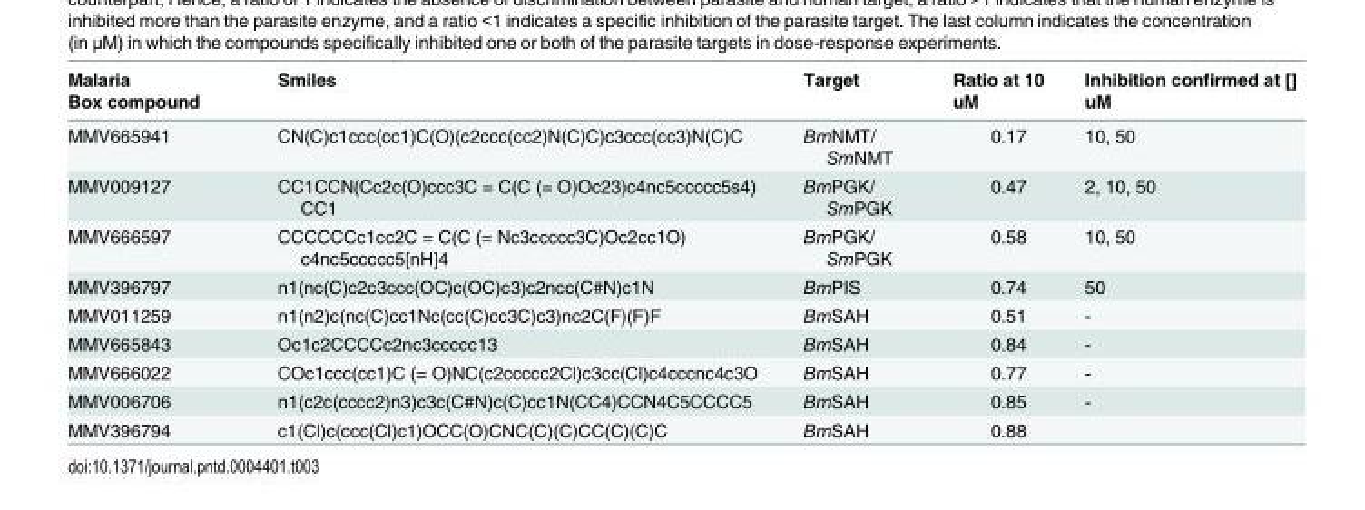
<table><thead><tr><td>Malaria Box compound</td><td>Smiles</td><td>Target</td><td>Ratio at 10 uM</td><td>Inhibition confirmed at [] uM</td></tr></thead><tbody><tr><td>MMV665941</td><td>CN(C)c1ccc(cc1)C(O)(c2ccc(cc2)N(C)C)c3ccc(cc3)N(C)C</td><td>BmNMT/ SmNMT</td><td>0.17</td><td>10, 50</td></tr><tr><td>MMV009127</td><td>CC1CCN(Cc2c(O)ccc3C = C(C (= O)Oc23)c4nc5ccccc5s4) CC1</td><td>BmPGK/ SmPGK</td><td>0.47</td><td>2, 10, 50</td></tr><tr><td>MMV666597</td><td>CCCCCCc1cc2C = C(C (= Nc3ccccc3C)Oc2cc1O) c4nc5ccccc5[nH]4</td><td>BmPGK/ SmPGK</td><td>0.58</td><td>10, 50</td></tr><tr><td>MMV396797</td><td>n1(nc(C)c2c3ccc(OC)c(OC)c3)c2ncc(C#N)c1N</td><td>BmPIS</td><td>0.74</td><td>50</td></tr><tr><td>MMV011259</td><td>n1(n2)c(nc(C)cc1Nc(cc(C)cc3C)c3)nc2C(F)(F)F</td><td>BmSAH</td><td>0.51</td><td>-</td></tr><tr><td>MMV665843</td><td>Oc1c2CCCCc2nc3ccccc13</td><td>BmSAH</td><td>0.84</td><td>-</td></tr><tr><td>MMV666022</td><td>COc1ccc(cc1)C (= O)NC(c2ccccc2Cl)c3cc(Cl)c4cccnc4c3O</td><td>BmSAH</td><td>0.77</td><td>-</td></tr><tr><td>MMV006706</td><td>n1(c2c(cccc2)n3)c3c(C#N)c(C)cc1N(CC4)CCN4C5CCCC5</td><td>BmSAH</td><td>0.85</td><td>-</td></tr><tr><td>MMV396794</td><td>c1(Cl)c(ccc(Cl)c1)OCC(O)CNC(C)(C)CC(C)(C)C</td><td>BmSAH</td><td>0.88</td><td></td></tr></tbody></table>